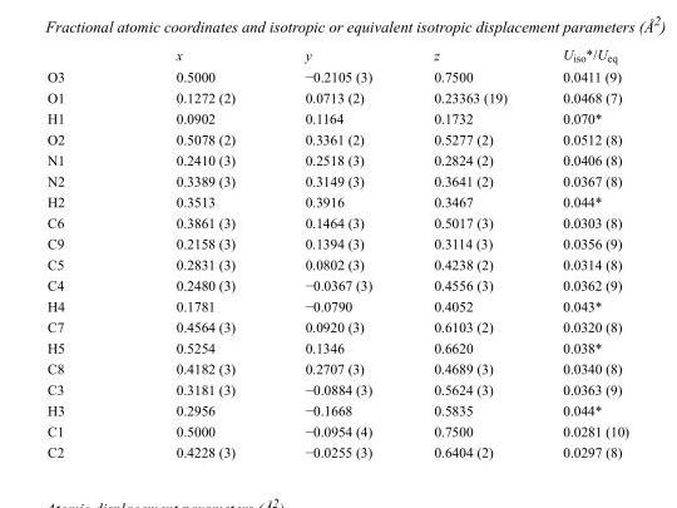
<table><thead><tr><td></td><td>x</td><td>y</td><td>z</td><td>U<sub>iso</sub>*/U<sub>eq</sub></td></tr></thead><tbody><tr><td>O3</td><td>0.5000</td><td>−0.2105 (3)</td><td>0.7500</td><td>0.0411 (9)</td></tr><tr><td>O1</td><td>0.1272 (2)</td><td>0.0713 (2)</td><td>0.23363 (19)</td><td>0.0468 (7)</td></tr><tr><td>H1</td><td>0.0902</td><td>0.1164</td><td>0.1732</td><td>0.070*</td></tr><tr><td>O2</td><td>0.5078 (2)</td><td>0.3361 (2)</td><td>0.5277 (2)</td><td>0.0512 (8)</td></tr><tr><td>N1</td><td>0.2410 (3)</td><td>0.2518 (3)</td><td>0.2824 (2)</td><td>0.0406 (8)</td></tr><tr><td>N2</td><td>0.3389 (3)</td><td>0.3149 (3)</td><td>0.3641 (2)</td><td>0.0367 (8)</td></tr><tr><td>H2</td><td>0.3513</td><td>0.3916</td><td>0.3467</td><td>0.044*</td></tr><tr><td>C6</td><td>0.3861 (3)</td><td>0.1464 (3)</td><td>0.5017 (3)</td><td>0.0303 (8)</td></tr><tr><td>C9</td><td>0.2158 (3)</td><td>0.1394 (3)</td><td>0.3114 (3)</td><td>0.0356 (9)</td></tr><tr><td>C5</td><td>0.2831 (3)</td><td>0.0802 (3)</td><td>0.4238 (2)</td><td>0.0314 (8)</td></tr><tr><td>C4</td><td>0.2480 (3)</td><td>−0.0367 (3)</td><td>0.4556 (3)</td><td>0.0362 (9)</td></tr><tr><td>H4</td><td>0.1781</td><td>−0.0790</td><td>0.4052</td><td>0.043*</td></tr><tr><td>C7</td><td>0.4564 (3)</td><td>0.0920 (3)</td><td>0.6103 (2)</td><td>0.0320 (8)</td></tr><tr><td>H5</td><td>0.5254</td><td>0.1346</td><td>0.6620</td><td>0.038*</td></tr><tr><td>C8</td><td>0.4182 (3)</td><td>0.2707 (3)</td><td>0.4689 (3)</td><td>0.0340 (8)</td></tr><tr><td>C3</td><td>0.3181 (3)</td><td>−0.0884 (3)</td><td>0.5624 (3)</td><td>0.0363 (9)</td></tr><tr><td>H3</td><td>0.2956</td><td>−0.1668</td><td>0.5835</td><td>0.044*</td></tr><tr><td>C1</td><td>0.5000</td><td>−0.0954 (4)</td><td>0.7500</td><td>0.0281 (10)</td></tr><tr><td>C2</td><td>0.4228 (3)</td><td>−0.0255 (3)</td><td>0.6404 (2)</td><td>0.0297 (8)</td></tr></tbody></table>